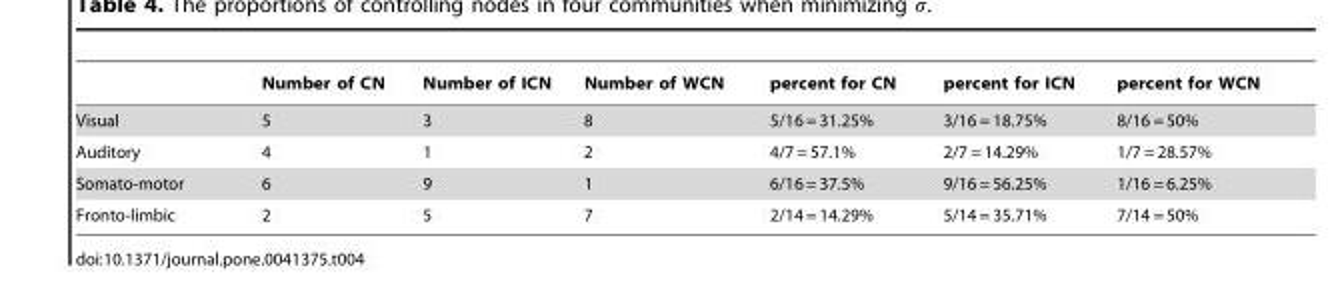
<table><thead><tr><td></td><td>Number of CN</td><td>Number of ICN</td><td>Number of WCN</td><td>percent for CN</td><td>percent for ICN</td><td>percent for WCN</td></tr></thead><tbody><tr><td>Visual</td><td>5</td><td>3</td><td>8</td><td>5/16 = 31.25%</td><td>3/16 = 18.75%</td><td>8/16 = 50%</td></tr><tr><td>Auditory</td><td>4</td><td>1</td><td>2</td><td>4/7 = 57.1%</td><td>2/7 = 14.29%</td><td>1/7 = 28.57%</td></tr><tr><td>Somato-motor</td><td>6</td><td>9</td><td>1</td><td>6/16 = 37.5%</td><td>9/16 = 56.25%</td><td>1/16 = 6.25%</td></tr><tr><td>Fronto-limbic</td><td>2</td><td>5</td><td>7</td><td>2/14 = 14.29%</td><td>5/14 = 35.71%</td><td>7/14 = 50%</td></tr></tbody></table>